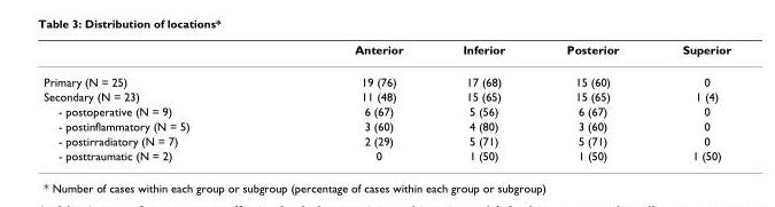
<table><thead><tr><td></td><td>Anterior</td><td>Inferior</td><td>Posterior</td><td>Superior</td></tr></thead><tbody><tr><td>Primary (N = 25)</td><td>19 (76)</td><td>17 (68)</td><td>15 (60)</td><td>0</td></tr><tr><td>Secondary (N = 23)</td><td>11 (48)</td><td>15 (65)</td><td>15 (65)</td><td>1 (4)</td></tr><tr><td>- postoperative (N = 9)</td><td>6 (67)</td><td>5 (56)</td><td>6 (67)</td><td>0</td></tr><tr><td>- postinflammatory (N = 5)</td><td>3 (60)</td><td>4 (80)</td><td>3 (60)</td><td>0</td></tr><tr><td>- postirradiatory (N = 7)</td><td>2 (29)</td><td>5 (71)</td><td>5 (71)</td><td>0</td></tr><tr><td>- posttraumatic (N = 2)</td><td>0</td><td>1 (50)</td><td>1 (50)</td><td>1 (50)</td></tr></tbody></table>